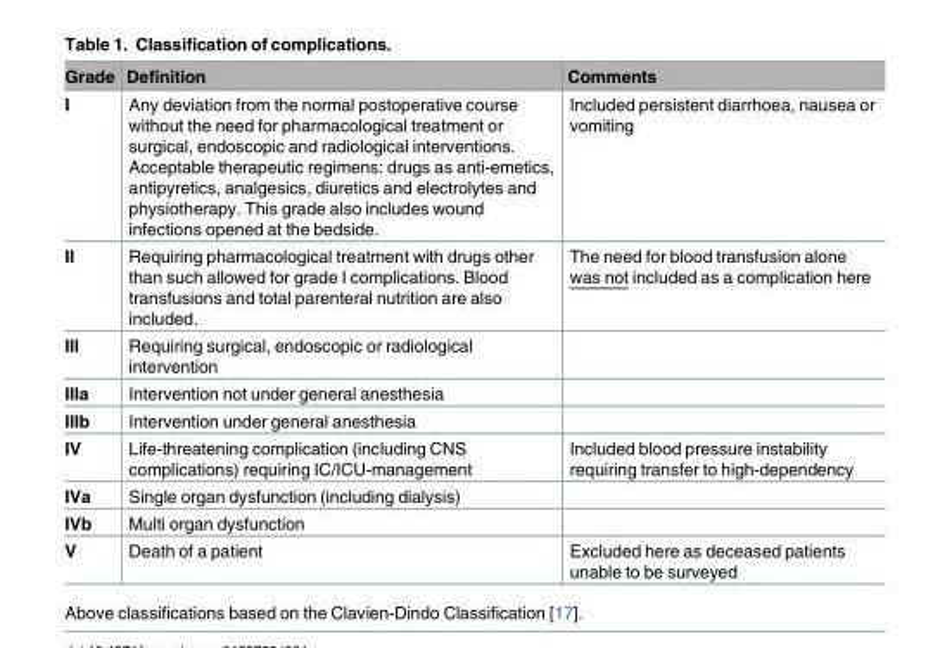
<table><thead><tr><td>Grade</td><td>Definition</td><td>Comments</td></tr></thead><tbody><tr><td>I</td><td>Any deviation from the normal postoperative course without the need for pharmacological treatment or surgical, endoscopic and radiological interventions. Acceptable therapeutic regimens: drugs as anti-emetics, antipyretics, analgesics, diuretics and electrolytes and physiotherapy. This grade also includes wound infections opened at the bedside.</td><td>Included persistent diarrhoea, nausea or vomiting</td></tr><tr><td>II</td><td>Requiring pharmacological treatment with drugs other than such allowed for grade I complications. Blood transfusions and total parenteral nutrition are also included.</td><td>The need for blood transfusion alone was not included as a complication here</td></tr><tr><td>III</td><td>Requiring surgical, endoscopic or radiological intervention</td><td></td></tr><tr><td>IIIa</td><td>Intervention not under general anesthesia</td><td></td></tr><tr><td>IIIb</td><td>Intervention under general anesthesia</td><td></td></tr><tr><td>IV</td><td>Life-threatening complication (including CNS complications) requiring IC/ICU-management</td><td>Included blood pressure instability requiring transfer to high-dependency</td></tr><tr><td>IVa</td><td>Single organ dysfunction (including dialysis)</td><td></td></tr><tr><td>IVb</td><td>Multi organ dysfunction</td><td></td></tr><tr><td>V</td><td>Death of a patient</td><td>Excluded here as deceased patients unable to be surveyed</td></tr></tbody></table>